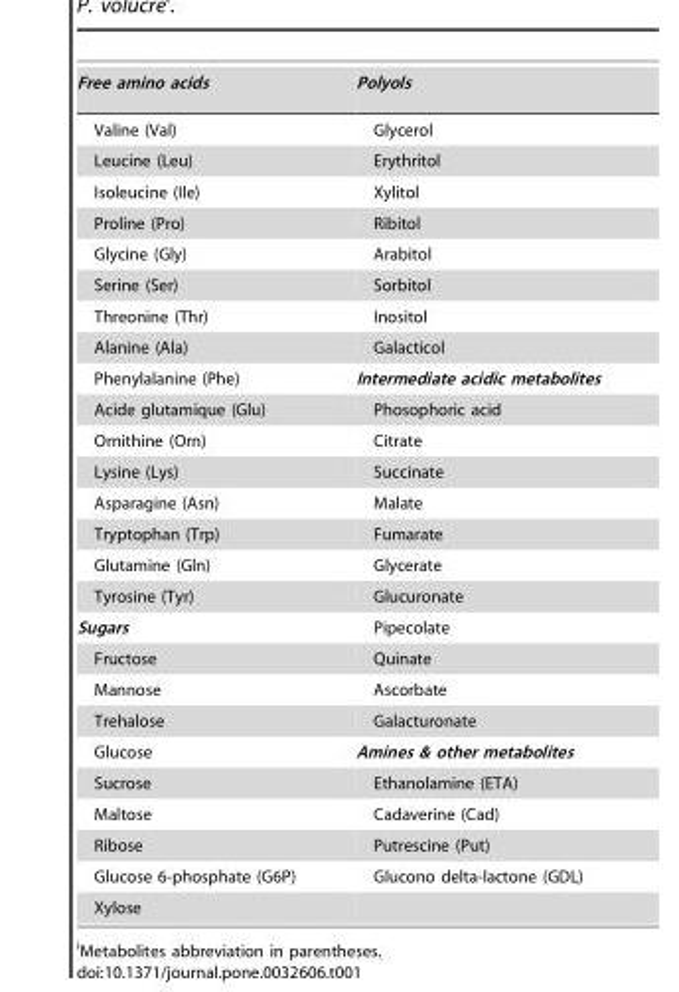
<table><tbody><tr><td>Free amino acids</td><td>Polyols</td></tr><tr><td>Valine (Val)</td><td>Glycerol</td></tr><tr><td>Leucine (Leu)</td><td>Erythritol</td></tr><tr><td>Isoleucine (Ile)</td><td>Xylitol</td></tr><tr><td>Proline (Pro)</td><td>Ribitol</td></tr><tr><td>Glycine (Gly)</td><td>Arabitol</td></tr><tr><td>Serine (Ser)</td><td>Sorbitol</td></tr><tr><td>Threonine (Thr)</td><td>Inositol</td></tr><tr><td>Alanine (Ala)</td><td>Galacticol</td></tr><tr><td>Phenylalanine (Phe)</td><td>Intermediate acidic metabolites</td></tr><tr><td>Acide glutamique (Glu)</td><td>Phosophoric acid</td></tr><tr><td>Ornithine (Orn)</td><td>Citrate</td></tr><tr><td>Lysine (Lys)</td><td>Succinate</td></tr><tr><td>Asparagine (Asn)</td><td>Malate</td></tr><tr><td>Tryptophan (Trp)</td><td>Fumarate</td></tr><tr><td>Glutamine (Gln)</td><td>Glycerate</td></tr><tr><td>Tyrosine (Tyr)</td><td>Glucuronate</td></tr><tr><td>Sugars</td><td>Pipecolate</td></tr><tr><td>Fructose</td><td>Quinate</td></tr><tr><td>Mannose</td><td>Ascorbate</td></tr><tr><td>Trehalose</td><td>Galacturonate</td></tr><tr><td>Glucose</td><td>Amines &amp; other metabolites</td></tr><tr><td>Sucrose</td><td>Ethanolamine (ETA)</td></tr><tr><td>Maltose</td><td>Cadaverine (Cad)</td></tr><tr><td>Ribose</td><td>Putrescine (Put)</td></tr><tr><td>Glucose 6-phosphate (G6P)</td><td>Glucono delta-lactone (GDL)</td></tr><tr><td>Xylose</td><td></td></tr></tbody></table>